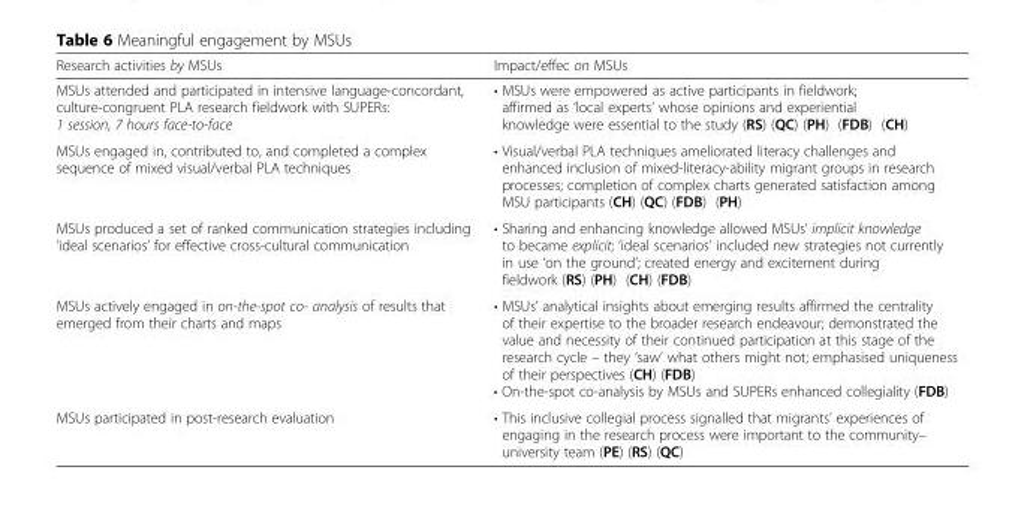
<table><thead><tr><td>Research activities by MSUs</td><td>Impact/effec on MSUs</td></tr></thead><tbody><tr><td>MSUs attended and participated in intensive language-concordant, culture-congruent PLA research fieldwork with SUPERs: 1 session, 7 hours face-to-face</td><td>• MSUs were empowered as active participants in fieldwork; affirmed as ‘local experts’ whose opinions and experiential knowledge were essential to the study (RS) (QC) (PH) (FDB) (CH)</td></tr><tr><td>MSUs engaged in, contributed to, and completed a complex sequence of mixed visual/verbal PLA techniques</td><td>• Visual/verbal PLA techniques ameliorated literacy challenges and enhanced inclusion of mixed-literacy-ability migrant groups in research processes; completion of complex charts generated satisfaction among MSU participants (CH) (QC) (FDB) (PH)</td></tr><tr><td>MSUs produced a set of ranked communication strategies including ‘ideal scenarios’ for effective cross-cultural communication</td><td>• Sharing and enhancing knowledge allowed MSUs’ implicit knowledge to became explicit; ‘ideal scenarios’ included new strategies not currently in use ‘on the ground’; created energy and excitement during fieldwork (RS) (PH) (CH) (FDB)</td></tr><tr><td>MSUs actively engaged in on-the-spot co- analysis of results that emerged from their charts and maps</td><td>• MSUs’ analytical insights about emerging results affirmed the centrality of their expertise to the broader research endeavour; demonstrated the value and necessity of their continued participation at this stage of the research cycle – they ‘saw’ what others might not; emphasised uniqueness of their perspectives (CH) (FDB) • On-the-spot co-analysis by MSUs and SUPERs enhanced collegiality (FDB)</td></tr><tr><td>MSUs participated in post-research evaluation</td><td>• This inclusive collegial process signalled that migrants’ experiences of engaging in the research process were important to the community– university team (PE) (RS) (QC)</td></tr></tbody></table>